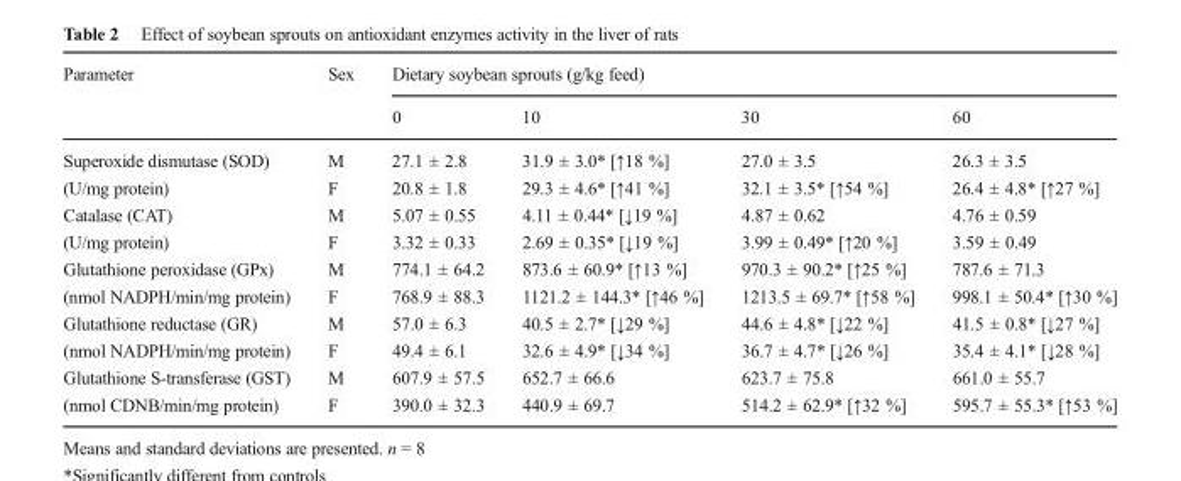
<table><thead><tr><td rowspan="2">Parameter</td><td rowspan="2">Sex</td><td colspan="4">Dietary soybean sprouts (g/kg feed)</td></tr><tr><td>0</td><td>10</td><td>30</td><td>60</td></tr></thead><tbody><tr><td>Superoxide dismutase (SOD)</td><td>M</td><td>27.1 ± 2.8</td><td>31.9 ± 3.0* [↑18 %]</td><td>27.0 ± 3.5</td><td>26.3 ± 3.5</td></tr><tr><td>(U/mg protein)</td><td>F</td><td>20.8 ± 1.8</td><td>29.3 ± 4.6* [↑41 %]</td><td>32.1 ± 3.5* [↑54 %]</td><td>26.4 ± 4.8* [↑27 %]</td></tr><tr><td>Catalase (CAT)</td><td>M</td><td>5.07 ± 0.55</td><td>4.11 ± 0.44* [↓19 %]</td><td>4.87 ± 0.62</td><td>4.76 ± 0.59</td></tr><tr><td>(U/mg protein)</td><td>F</td><td>3.32 ± 0.33</td><td>2.69 ± 0.35* [↓19 %]</td><td>3.99 ± 0.49* [↑20 %]</td><td>3.59 ± 0.49</td></tr><tr><td>Glutathione peroxidase (GPx)</td><td>M</td><td>774.1 ± 64.2</td><td>873.6 ± 60.9* [↑13 %]</td><td>970.3 ± 90.2* [↑25 %]</td><td>787.6 ± 71.3</td></tr><tr><td>(nmol NADPH/min/mg protein)</td><td>F</td><td>768.9 ± 88.3</td><td>1121.2 ± 144.3* [↑46 %]</td><td>1213.5 ± 69.7* [↑58 %]</td><td>998.1 ± 50.4* [↑30 %]</td></tr><tr><td>Glutathione reductase (GR)</td><td>M</td><td>57.0 ± 6.3</td><td>40.5 ± 2.7* [↓29 %]</td><td>44.6 ± 4.8* [↓22 %]</td><td>41.5 ± 0.8* [↓27 %]</td></tr><tr><td>(nmol NADPH/min/mg protein)</td><td>F</td><td>49.4 ± 6.1</td><td>32.6 ± 4.9* [↓34 %]</td><td>36.7 ± 4.7* [↓26 %]</td><td>35.4 ± 4.1* [↓28 %]</td></tr><tr><td>Glutathione S-transferase (GST)</td><td>M</td><td>607.9 ± 57.5</td><td>652.7 ± 66.6</td><td>623.7 ± 75.8</td><td>661.0 ± 55.7</td></tr><tr><td>(nmol CDNB/min/mg protein)</td><td>F</td><td>390.0 ± 32.3</td><td>440.9 ± 69.7</td><td>514.2 ± 62.9* [↑32 %]</td><td>595.7 ± 55.3* [↑53 %]</td></tr></tbody></table>